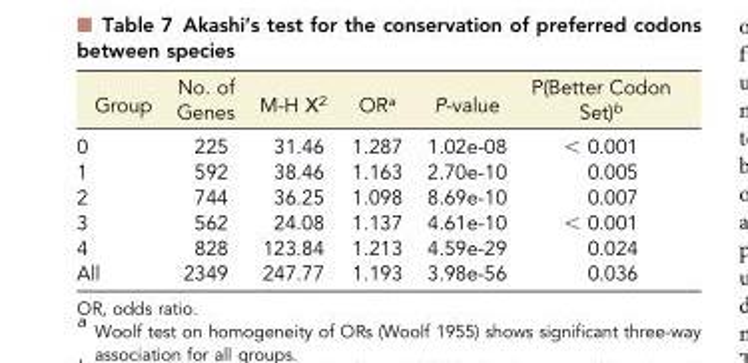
<table><thead><tr><td>Group</td><td>No. of Genes</td><td>M-H Χ<sup>2</sup></td><td>OR<sup>a</sup></td><td>P-value</td><td>P(Better Codon Set)<sup>b</sup></td></tr></thead><tbody><tr><td>0</td><td>225</td><td>31.46</td><td>1.287</td><td>1.02e-08</td><td>&lt; 0.001</td></tr><tr><td>1</td><td>592</td><td>38.46</td><td>1.163</td><td>2.70e-10</td><td>0.005</td></tr><tr><td>2</td><td>744</td><td>36.25</td><td>1.098</td><td>8.69e-10</td><td>0.007</td></tr><tr><td>3</td><td>562</td><td>24.08</td><td>1.137</td><td>4.61e-10</td><td>&lt; 0.001</td></tr><tr><td>4</td><td>828</td><td>123.84</td><td>1.213</td><td>4.59e-29</td><td>0.024</td></tr><tr><td>All</td><td>2349</td><td>247.77</td><td>1.193</td><td>3.98e-56</td><td>0.036</td></tr></tbody></table>